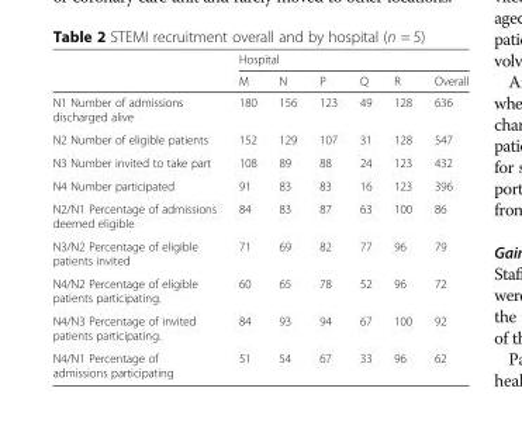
<table><thead><tr><td rowspan="2"></td><td colspan="6">Hospital</td></tr><tr><td>M</td><td>N</td><td>P</td><td>Q</td><td>R</td><td>Overall</td></tr></thead><tbody><tr><td>N1 Number of admissions discharged alive</td><td>180</td><td>156</td><td>123</td><td>49</td><td>128</td><td>636</td></tr><tr><td>N2 Number of eligible patients</td><td>152</td><td>129</td><td>107</td><td>31</td><td>128</td><td>547</td></tr><tr><td>N3 Number invited to take part</td><td>108</td><td>89</td><td>88</td><td>24</td><td>123</td><td>432</td></tr><tr><td>N4 Number participated</td><td>91</td><td>83</td><td>83</td><td>16</td><td>123</td><td>396</td></tr><tr><td>N2/N1 Percentage of admissions deemed eligible</td><td>84</td><td>83</td><td>87</td><td>63</td><td>100</td><td>86</td></tr><tr><td>N3/N2 Percentage of eligible patients invited</td><td>71</td><td>69</td><td>82</td><td>77</td><td>96</td><td>79</td></tr><tr><td>N4/N2 Percentage of eligible patients participating.</td><td>60</td><td>65</td><td>78</td><td>52</td><td>96</td><td>72</td></tr><tr><td>N4/N3 Percentage of invited patients participating.</td><td>84</td><td>93</td><td>94</td><td>67</td><td>100</td><td>92</td></tr><tr><td>N4/N1 Percentage of admissions participating</td><td>51</td><td>54</td><td>67</td><td>33</td><td>96</td><td>62</td></tr></tbody></table>